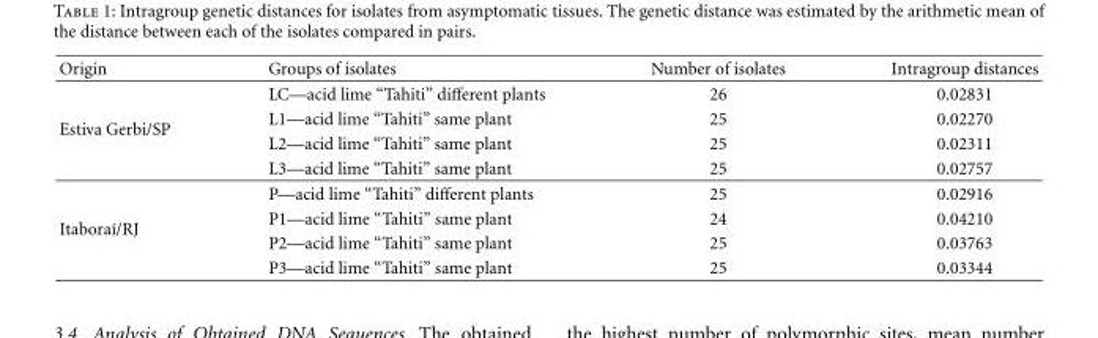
<table><thead><tr><td>Origin</td><td>Groups of isolates</td><td>Number of isolates</td><td>Intragroup distances</td></tr></thead><tbody><tr><td rowspan="4">Estiva Gerbi/SP</td><td>LC—acid lime “Tahiti” different plants</td><td>26</td><td>0.02831</td></tr><tr><td>L1—acid lime “Tahiti” same plant</td><td>25</td><td>0.02270</td></tr><tr><td>L2—acid lime “Tahiti” same plant</td><td>25</td><td>0.02311</td></tr><tr><td>L3—acid lime “Tahiti” same plant</td><td>25</td><td>0.02757</td></tr><tr><td rowspan="4">Itabora´ı/RJ</td><td>P—acid lime “Tahiti” different plants</td><td>25</td><td>0.02916</td></tr><tr><td>P1—acid lime “Tahiti” same plant</td><td>24</td><td>0.04210</td></tr><tr><td>P2—acid lime “Tahiti” same plant</td><td>25</td><td>0.03763</td></tr><tr><td>P3—acid lime “Tahiti” same plant</td><td>25</td><td>0.03344</td></tr></tbody></table>